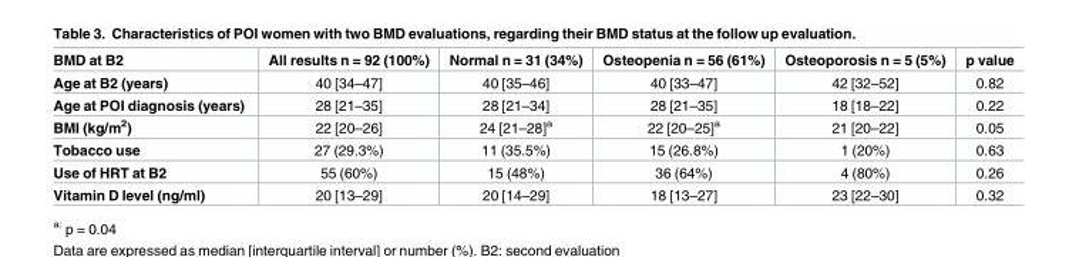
<table><thead><tr><td>BMD at B2</td><td>All results n = 92 (100%)</td><td>Normal n = 31 (34%)</td><td>Osteopenia n = 56 (61%)</td><td>Osteoporosis n = 5 (5%)</td><td>p value</td></tr></thead><tbody><tr><td>Age at B2 (years)</td><td>40 [34–47]</td><td>40 [35–46]</td><td>40 [33–47]</td><td>42 [32–52]</td><td>0.82</td></tr><tr><td>Age at POI diagnosis (years)</td><td>28 [21–35]</td><td>28 [21–34]</td><td>28 [21–35]</td><td>18 [18–22]</td><td>0.22</td></tr><tr><td>BMI (kg/m<sup>2</sup>)</td><td>22 [20–26]</td><td>24 [21–28]<sup>a</sup></td><td>22 [20–25]<sup>a</sup></td><td>21 [20–22]</td><td>0.05</td></tr><tr><td>Tobacco use</td><td>27 (29.3%)</td><td>11 (35.5%)</td><td>15 (26.8%)</td><td>1 (20%)</td><td>0.63</td></tr><tr><td>Use of HRT at B2</td><td>55 (60%)</td><td>15 (48%)</td><td>36 (64%)</td><td>4 (80%)</td><td>0.26</td></tr><tr><td>Vitamin D level (ng/ml)</td><td>20 [13–29]</td><td>20 [14–29]</td><td>18 [13–27]</td><td>23 [22–30]</td><td>0.32</td></tr></tbody></table>